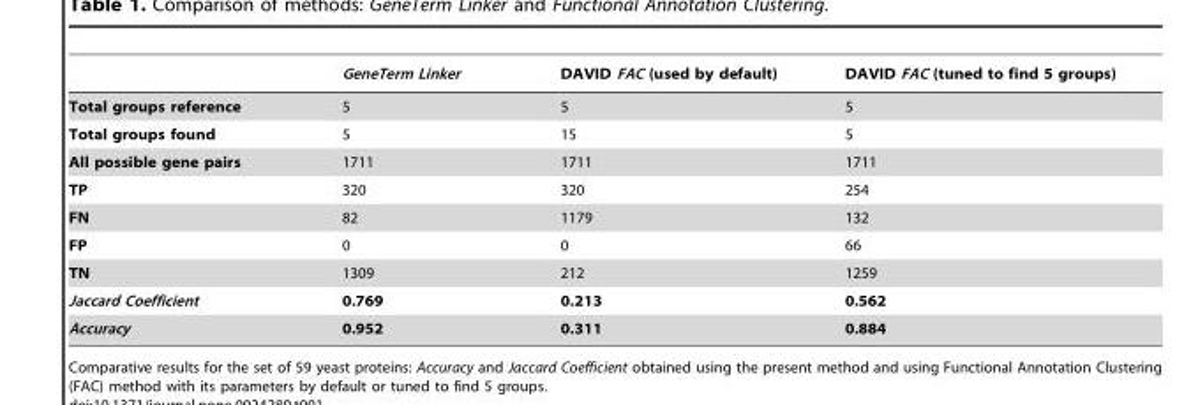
<table><thead><tr><td></td><td>GeneTerm Linker</td><td>DAVID FAC (used by default)</td><td>DAVID FAC (tuned to find 5 groups)</td></tr></thead><tbody><tr><td>Total groups reference</td><td>5</td><td>5</td><td>5</td></tr><tr><td>Total groups found</td><td>5</td><td>15</td><td>5</td></tr><tr><td>All possible gene pairs</td><td>1711</td><td>1711</td><td>1711</td></tr><tr><td>TP</td><td>320</td><td>320</td><td>254</td></tr><tr><td>FN</td><td>82</td><td>1179</td><td>132</td></tr><tr><td>FP</td><td>0</td><td>0</td><td>66</td></tr><tr><td>TN</td><td>1309</td><td>212</td><td>1259</td></tr><tr><td>Jaccard Coefficient</td><td>0.769</td><td>0.213</td><td>0.562</td></tr><tr><td>Accuracy</td><td>0.952</td><td>0.311</td><td>0.884</td></tr></tbody></table>